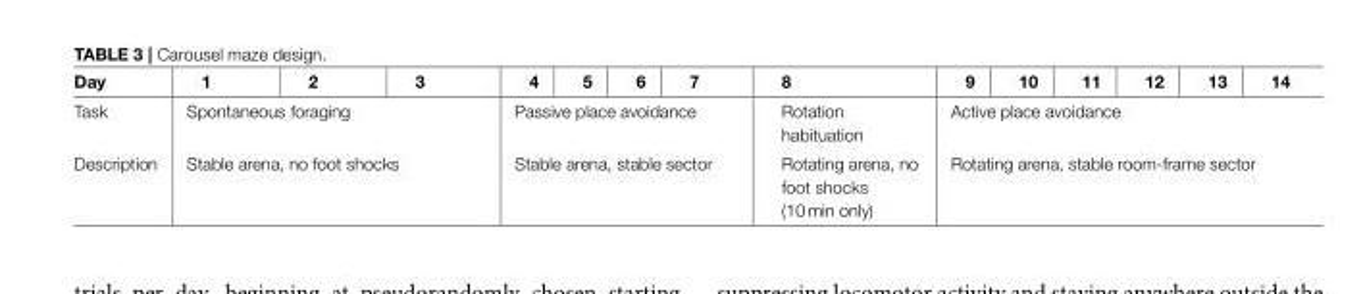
<table><thead><tr><td>Day</td><td>1</td><td>2</td><td>3</td><td>4</td><td>5</td><td>6</td><td>7</td><td>8</td><td>9</td><td>10</td><td>11</td><td>12</td><td>13</td><td>14</td></tr></thead><tbody><tr><td>Task</td><td colspan="3">Spontaneous foraging</td><td colspan="4">Passive place avoidance</td><td>Rotation habituation</td><td colspan="6">Active place avoidance</td></tr><tr><td>Description</td><td colspan="3">Stable arena, no foot shocks</td><td colspan="4">Stable arena, stable sector</td><td>Rotating arena, no foot shocks (10 min only)</td><td colspan="6">Rotating arena, stable room-frame sector</td></tr></tbody></table>